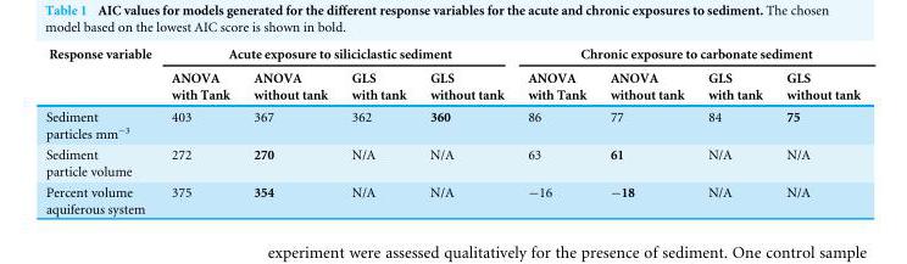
<table><thead><tr><td rowspan="2">Response variable</td><td colspan="4">Acute exposure to siliciclastic sediment</td><td colspan="4">Chronic exposure to carbonate sediment</td></tr><tr><td>ANOVA with Tank</td><td>ANOVA without tank</td><td>GLS with tank</td><td>GLS without tank</td><td>ANOVA with Tank</td><td>ANOVA without tank</td><td>GLS with tank</td><td>GLS without tank</td></tr></thead><tbody><tr><td>Sediment particles mm<sup>−3</sup></td><td>403</td><td>367</td><td>362</td><td>360</td><td>86</td><td>77</td><td>84</td><td>75</td></tr><tr><td>Sediment particle volume</td><td>272</td><td>270</td><td>N/A</td><td>N/A</td><td>63</td><td>61</td><td>N/A</td><td>N/A</td></tr><tr><td>Percent volume aquiferous system</td><td>375</td><td>354</td><td>N/A</td><td>N/A</td><td>−16</td><td>−18</td><td>N/A</td><td>N/A</td></tr></tbody></table>